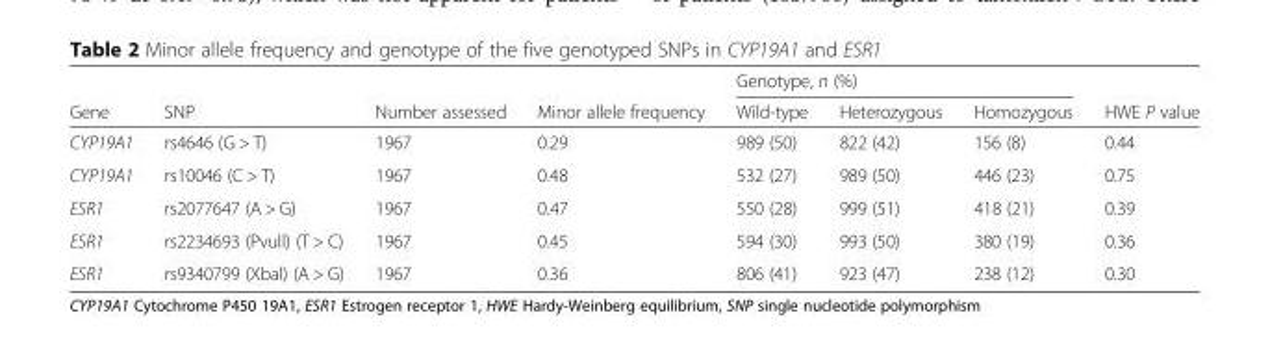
<table><thead><tr><td rowspan="2">Gene</td><td rowspan="2">SNP</td><td rowspan="2">Number assessed</td><td rowspan="2">Minor allele frequency</td><td colspan="3">Genotype, n (%)</td><td rowspan="2">HWE P value</td></tr><tr><td>Wild-type</td><td>Heterozygous</td><td>Homozygous</td></tr></thead><tbody><tr><td>CYP19A1</td><td>rs4646 (G &gt; T)</td><td>1967</td><td>0.29</td><td>989 (50)</td><td>822 (42)</td><td>156 (8)</td><td>0.44</td></tr><tr><td>CYP19A1</td><td>rs10046 (C &gt; T)</td><td>1967</td><td>0.48</td><td>532 (27)</td><td>989 (50)</td><td>446 (23)</td><td>0.75</td></tr><tr><td>ESR1</td><td>rs2077647 (A &gt; G)</td><td>1967</td><td>0.47</td><td>550 (28)</td><td>999 (51)</td><td>418 (21)</td><td>0.39</td></tr><tr><td>ESR1</td><td>rs2234693 (Pvull) (T &gt; C)</td><td>1967</td><td>0.45</td><td>594 (30)</td><td>993 (50)</td><td>380 (19)</td><td>0.36</td></tr><tr><td>ESR1</td><td>rs9340799 (Xbal) (A &gt; G)</td><td>1967</td><td>0.36</td><td>806 (41)</td><td>923 (47)</td><td>238 (12)</td><td>0.30</td></tr></tbody></table>